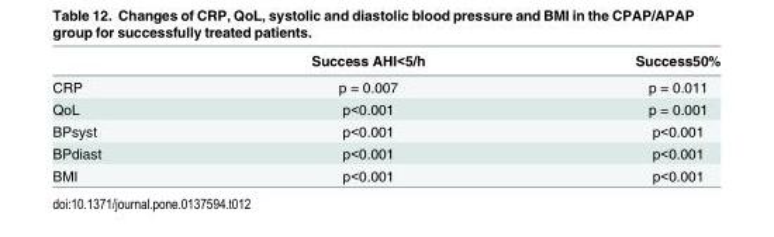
<table><thead><tr><td></td><td>Success AHI&lt;5/h</td><td>Success50%</td></tr></thead><tbody><tr><td>CRP</td><td>p = 0.007</td><td>p = 0.011</td></tr><tr><td>QoL</td><td>p&lt;0.001</td><td>p = 0.001</td></tr><tr><td>BPsyst</td><td>p&lt;0.001</td><td>p&lt;0.001</td></tr><tr><td>BPdiast</td><td>p&lt;0.001</td><td>p&lt;0.001</td></tr><tr><td>BMI</td><td>p&lt;0.001</td><td>p&lt;0.001</td></tr></tbody></table>